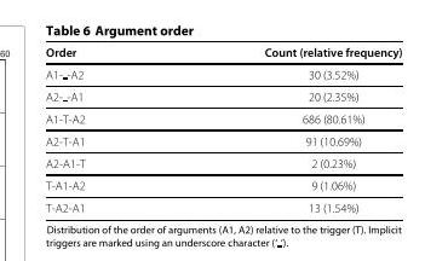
<table><thead><tr><td>Order</td><td>Count (relative frequency)</td></tr></thead><tbody><tr><td>A1- -A2</td><td>30 (3.52%)</td></tr><tr><td>A2- -A1</td><td>20 (2.35%)</td></tr><tr><td>A1-T-A2</td><td>686 (80.61%)</td></tr><tr><td>A2-T-A1</td><td>91 (10.69%)</td></tr><tr><td>A2-A1-T</td><td>2 (0.23%)</td></tr><tr><td>T-A1-A2</td><td>9 (1.06%)</td></tr><tr><td>T-A2-A1</td><td>13 (1.54%)</td></tr></tbody></table>